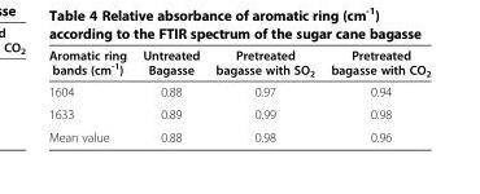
<table><thead><tr><td>Aromatic ring bands (cm<sup>-1</sup>)</td><td>Untreated Bagasse</td><td>Pretreated bagasse with SO<sub>2</sub></td><td>Pretreated bagasse with CO<sub>2</sub></td></tr></thead><tbody><tr><td>1604</td><td>0.88</td><td>0.97</td><td>0.94</td></tr><tr><td>1633</td><td>0.89</td><td>0.99</td><td>0.98</td></tr><tr><td>Mean value</td><td>0.88</td><td>0.98</td><td>0.96</td></tr></tbody></table>